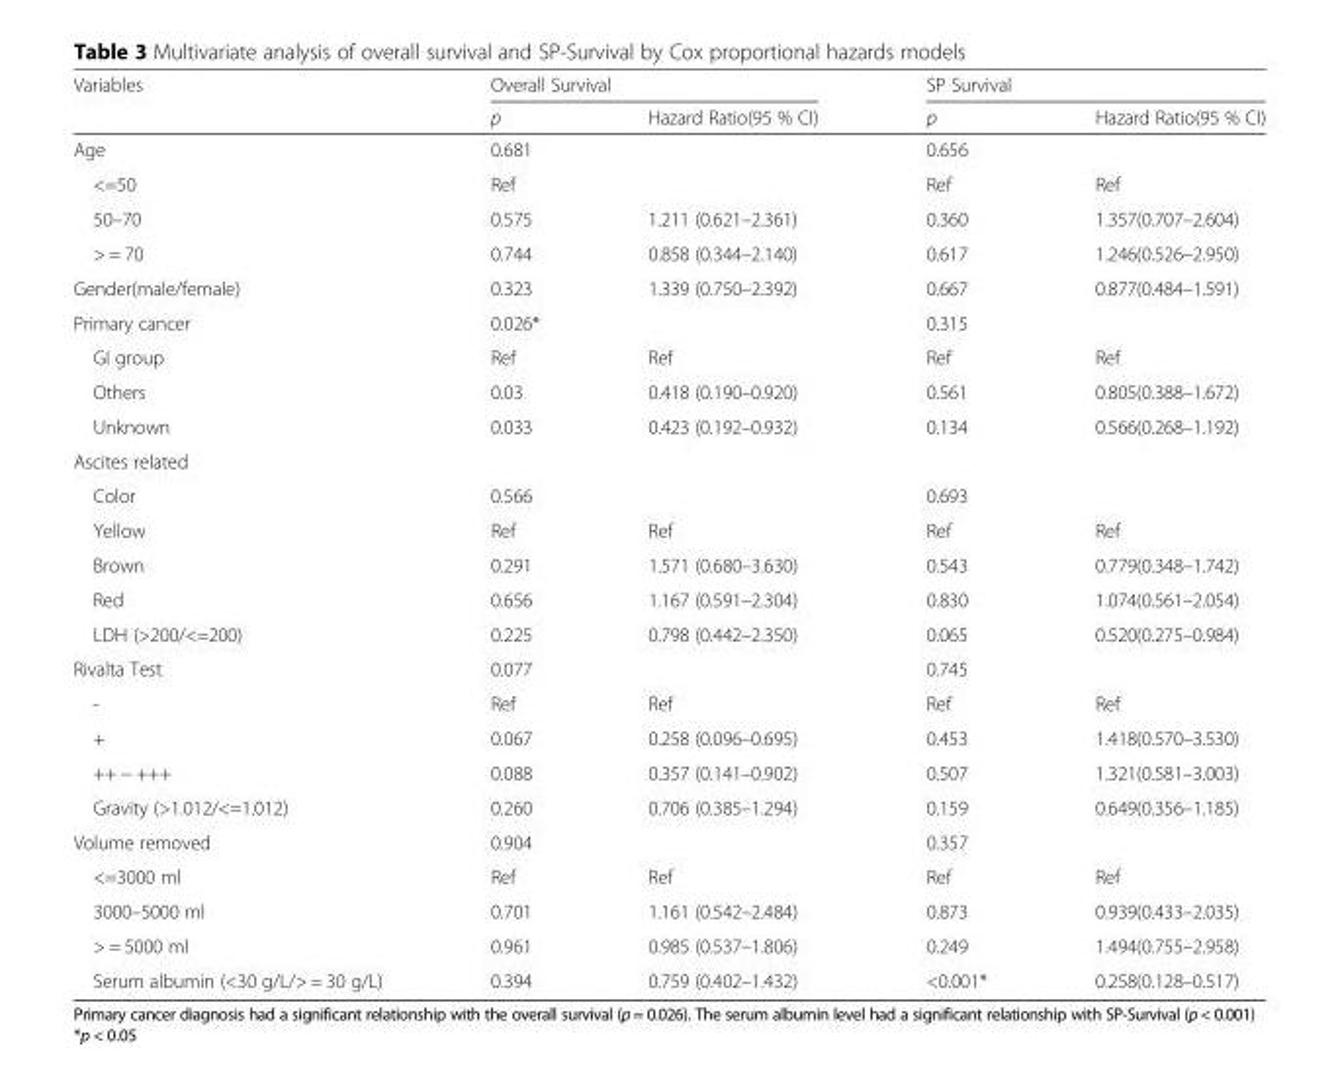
<table><thead><tr><td rowspan="2">Variables</td><td colspan="2">Overall Survival</td><td colspan="2">SP Survival</td></tr><tr><td>p</td><td>Hazard Ratio(95 % CI)</td><td>p</td><td>Hazard Ratio(95 % CI)</td></tr></thead><tbody><tr><td>Age</td><td>0.681</td><td></td><td>0.656</td><td></td></tr><tr><td>&lt;=50</td><td>Ref</td><td></td><td>Ref</td><td>Ref</td></tr><tr><td>50–70</td><td>0.575</td><td>1.211 (0.621–2.361)</td><td>0.360</td><td>1.357(0.707–2.604)</td></tr><tr><td>&gt; = 70</td><td>0.744</td><td>0.858 (0.344–2.140)</td><td>0.617</td><td>1.246(0.526–2.950)</td></tr><tr><td>Gender(male/female)</td><td>0.323</td><td>1.339 (0.750–2.392)</td><td>0.667</td><td>0.877(0.484–1.591)</td></tr><tr><td>Primary cancer</td><td>0.026*</td><td></td><td>0.315</td><td></td></tr><tr><td>GI group</td><td>Ref</td><td>Ref</td><td>Ref</td><td>Ref</td></tr><tr><td>Others</td><td>0.03</td><td>0.418 (0.190–0.920)</td><td>0.561</td><td>0.805(0.388–1.672)</td></tr><tr><td>Unknown</td><td>0.033</td><td>0.423 (0.192–0.932)</td><td>0.134</td><td>0.566(0.268–1.192)</td></tr><tr><td colspan="5">Ascites related</td></tr><tr><td>Color</td><td>0.566</td><td></td><td>0.693</td><td></td></tr><tr><td>Yellow</td><td>Ref</td><td>Ref</td><td>Ref</td><td>Ref</td></tr><tr><td>Brown</td><td>0.291</td><td>1.571 (0.680–3.630)</td><td>0.543</td><td>0.779(0.348–1.742)</td></tr><tr><td>Red</td><td>0.656</td><td>1.167 (0.591–2.304)</td><td>0.830</td><td>1.074(0.561–2.054)</td></tr><tr><td>LDH (&gt;200/&lt;=200)</td><td>0.225</td><td>0.798 (0.442–2.350)</td><td>0.065</td><td>0.520(0.275–0.984)</td></tr><tr><td>Rivalta Test</td><td>0.077</td><td></td><td>0.745</td><td></td></tr><tr><td>-</td><td>Ref</td><td>Ref</td><td>Ref</td><td>Ref</td></tr><tr><td>+</td><td>0.067</td><td>0.258 (0.096–0.695)</td><td>0.453</td><td>1.418(0.570–3.530)</td></tr><tr><td>++ − +++</td><td>0.088</td><td>0.357 (0.141–0.902)</td><td>0.507</td><td>1.321(0.581–3.003)</td></tr><tr><td>Gravity (&gt;1.012/&lt;=1.012)</td><td>0.260</td><td>0.706 (0.385–1.294)</td><td>0.159</td><td>0.649(0.356–1.185)</td></tr><tr><td>Volume removed</td><td>0.904</td><td></td><td>0.357</td><td></td></tr><tr><td>&lt;=3000 ml</td><td>Ref</td><td>Ref</td><td>Ref</td><td>Ref</td></tr><tr><td>3000–5000 ml</td><td>0.701</td><td>1.161 (0.542–2.484)</td><td>0.873</td><td>0.939(0.433–2.035)</td></tr><tr><td>&gt; = 5000 ml</td><td>0.961</td><td>0.985 (0.537–1.806)</td><td>0.249</td><td>1.494(0.755–2.958)</td></tr><tr><td>Serum albumin (&lt;30 g/L/&gt; = 30 g/L)</td><td>0.394</td><td>0.759 (0.402–1.432)</td><td>&lt;0.001*</td><td>0.258(0.128–0.517)</td></tr></tbody></table>